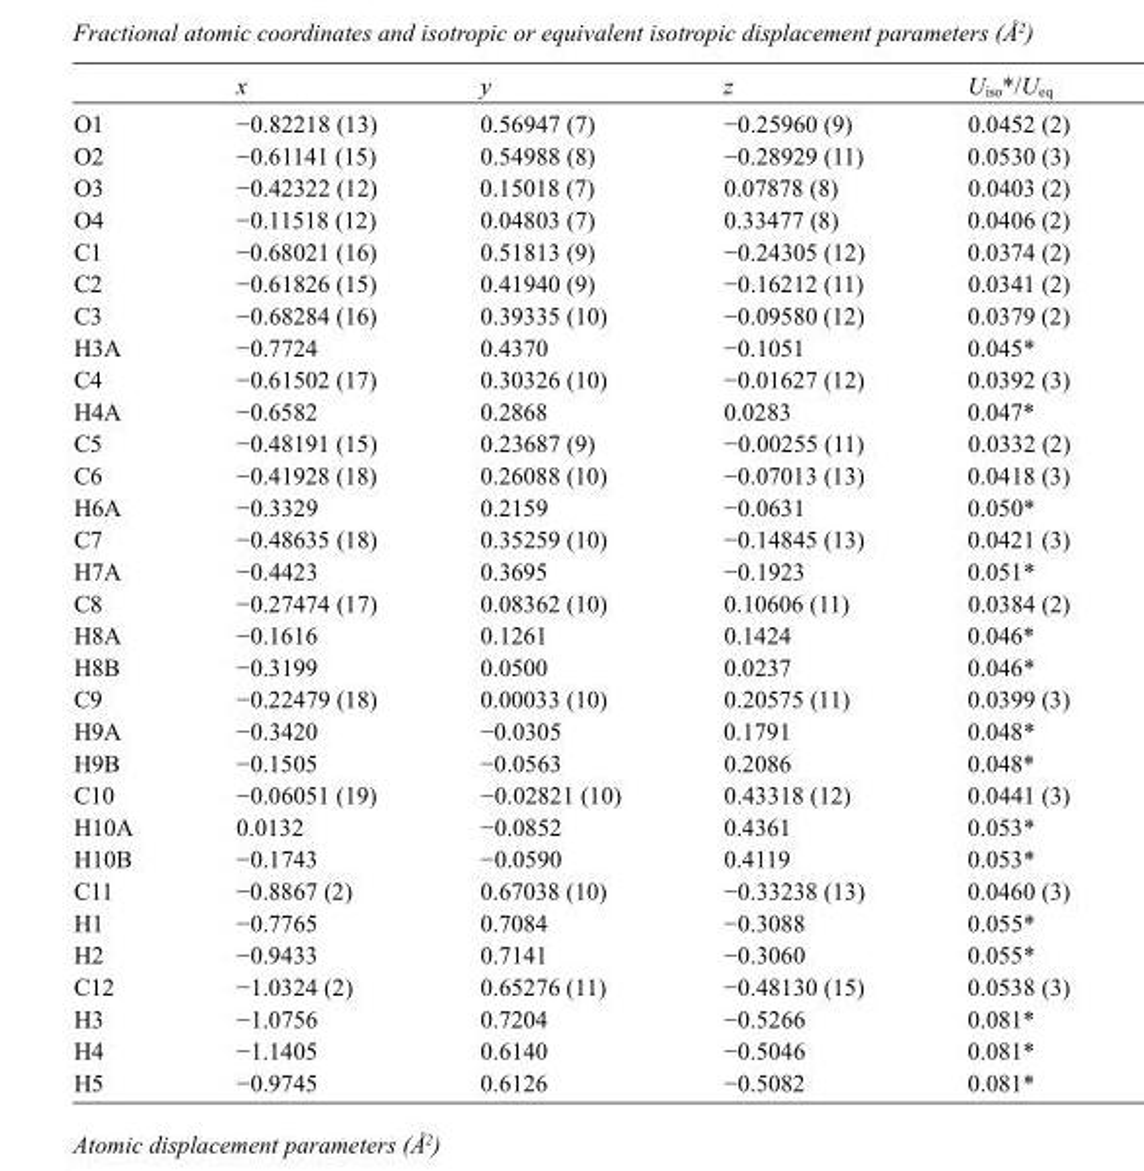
<table><thead><tr><td></td><td>x</td><td>y</td><td>z</td><td>U<sub>iso</sub>*/U<sub>eq</sub></td></tr></thead><tbody><tr><td>O1</td><td>−0.82218 (13)</td><td>0.56947 (7)</td><td>−0.25960 (9)</td><td>0.0452 (2)</td></tr><tr><td>O2</td><td>−0.61141 (15)</td><td>0.54988 (8)</td><td>−0.28929 (11)</td><td>0.0530 (3)</td></tr><tr><td>O3</td><td>−0.42322 (12)</td><td>0.15018 (7)</td><td>0.07878 (8)</td><td>0.0403 (2)</td></tr><tr><td>O4</td><td>−0.11518 (12)</td><td>0.04803 (7)</td><td>0.33477 (8)</td><td>0.0406 (2)</td></tr><tr><td>C1</td><td>−0.68021 (16)</td><td>0.51813 (9)</td><td>−0.24305 (12)</td><td>0.0374 (2)</td></tr><tr><td>C2</td><td>−0.61826 (15)</td><td>0.41940 (9)</td><td>−0.16212 (11)</td><td>0.0341 (2)</td></tr><tr><td>C3</td><td>−0.68284 (16)</td><td>0.39335 (10)</td><td>−0.09580 (12)</td><td>0.0379 (2)</td></tr><tr><td>H3A</td><td>−0.7724</td><td>0.4370</td><td>−0.1051</td><td>0.045*</td></tr><tr><td>C4</td><td>−0.61502 (17)</td><td>0.30326 (10)</td><td>−0.01627 (12)</td><td>0.0392 (3)</td></tr><tr><td>H4A</td><td>−0.6582</td><td>0.2868</td><td>0.0283</td><td>0.047*</td></tr><tr><td>C5</td><td>−0.48191 (15)</td><td>0.23687 (9)</td><td>−0.00255 (11)</td><td>0.0332 (2)</td></tr><tr><td>C6</td><td>−0.41928 (18)</td><td>0.26088 (10)</td><td>−0.07013 (13)</td><td>0.0418 (3)</td></tr><tr><td>H6A</td><td>−0.3329</td><td>0.2159</td><td>−0.0631</td><td>0.050*</td></tr><tr><td>C7</td><td>−0.48635 (18)</td><td>0.35259 (10)</td><td>−0.14845 (13)</td><td>0.0421 (3)</td></tr><tr><td>H7A</td><td>−0.4423</td><td>0.3695</td><td>−0.1923</td><td>0.051*</td></tr><tr><td>C8</td><td>−0.27474 (17)</td><td>0.08362 (10)</td><td>0.10606 (11)</td><td>0.0384 (2)</td></tr><tr><td>H8A</td><td>−0.1616</td><td>0.1261</td><td>0.1424</td><td>0.046*</td></tr><tr><td>H8B</td><td>−0.3199</td><td>0.0500</td><td>0.0237</td><td>0.046*</td></tr><tr><td>C9</td><td>−0.22479 (18)</td><td>0.00033 (10)</td><td>0.20575 (11)</td><td>0.0399 (3)</td></tr><tr><td>H9A</td><td>−0.3420</td><td>−0.0305</td><td>0.1791</td><td>0.048*</td></tr><tr><td>H9B</td><td>−0.1505</td><td>−0.0563</td><td>0.2086</td><td>0.048*</td></tr><tr><td>C10</td><td>−0.06051 (19)</td><td>−0.02821 (10)</td><td>0.43318 (12)</td><td>0.0441 (3)</td></tr><tr><td>H10A</td><td>0.0132</td><td>−0.0852</td><td>0.4361</td><td>0.053*</td></tr><tr><td>H10B</td><td>−0.1743</td><td>−0.0590</td><td>0.4119</td><td>0.053*</td></tr><tr><td>C11</td><td>−0.8867 (2)</td><td>0.67038 (10)</td><td>−0.33238 (13)</td><td>0.0460 (3)</td></tr><tr><td>H1</td><td>−0.7765</td><td>0.7084</td><td>−0.3088</td><td>0.055*</td></tr><tr><td>H2</td><td>−0.9433</td><td>0.7141</td><td>−0.3060</td><td>0.055*</td></tr><tr><td>C12</td><td>−1.0324 (2)</td><td>0.65276 (11)</td><td>−0.48130 (15)</td><td>0.0538 (3)</td></tr><tr><td>H3</td><td>−1.0756</td><td>0.7204</td><td>−0.5266</td><td>0.081*</td></tr><tr><td>H4</td><td>−1.1405</td><td>0.6140</td><td>−0.5046</td><td>0.081*</td></tr><tr><td>H5</td><td>−0.9745</td><td>0.6126</td><td>−0.5082</td><td>0.081*</td></tr></tbody></table>